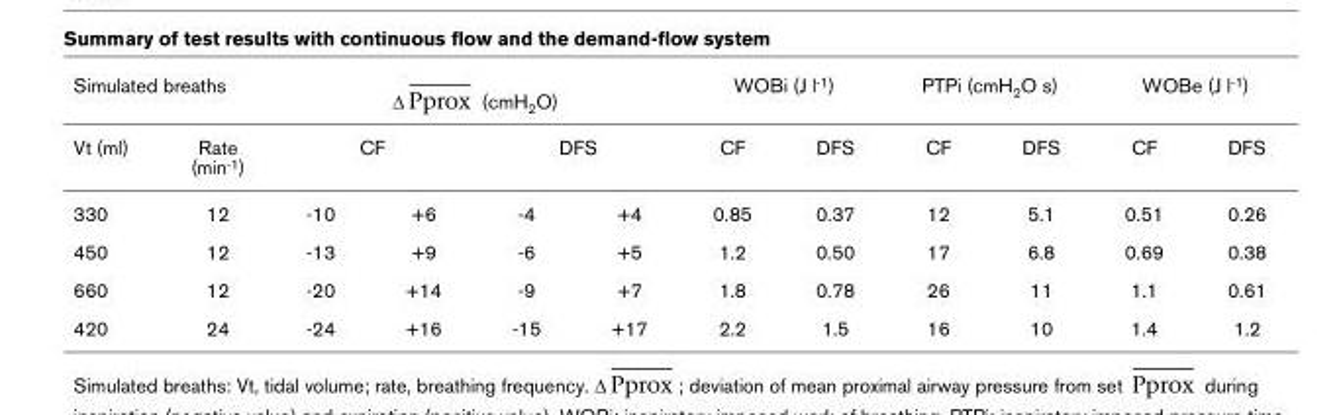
<table><thead><tr><td colspan="2">Simulated breaths</td><td colspan="4">∆ (cmH2O) Pprox</td><td colspan="2">WOBi (J l-1)</td><td colspan="2">PTPi (cmH2O s)</td><td colspan="2">WOBe (J l-1)</td></tr><tr><td rowspan="2">Vt (ml) 330</td><td rowspan="2">Rate (min-1) 12</td><td colspan="2">CF</td><td colspan="2">DFS</td><td rowspan="2">CF 0.85</td><td rowspan="2">DFS 0.37</td><td rowspan="2">CF 12</td><td rowspan="2">DFS 5.1</td><td rowspan="2">CF 0.51</td><td rowspan="2">DFS 0.26</td></tr><tr><td>-10</td><td>+6</td><td>-4</td><td>+4</td></tr></thead><tbody><tr><td>450</td><td>12</td><td>-13</td><td>+9</td><td>-6</td><td>+5</td><td>1.2</td><td>0.50</td><td>17</td><td>6.8</td><td>0.69</td><td>0.38</td></tr><tr><td>660</td><td>12</td><td>-20</td><td>+14</td><td>-9</td><td>+7</td><td>1.8</td><td>0.78</td><td>26</td><td>11</td><td>1.1</td><td>0.61</td></tr><tr><td>420</td><td>24</td><td>-24</td><td>+16</td><td>-15</td><td>+17</td><td>2.2</td><td>1.5</td><td>16</td><td>10</td><td>1.4</td><td>1.2</td></tr></tbody></table>